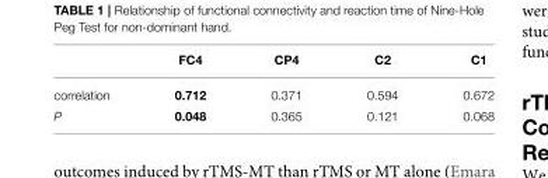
<table><thead><tr><td></td><td>FC4</td><td>CP4</td><td>C2</td><td>C1</td></tr></thead><tbody><tr><td>correlation</td><td>0.712</td><td>0.371</td><td>0.594</td><td>0.672</td></tr><tr><td>P</td><td>0.048</td><td>0.365</td><td>0.121</td><td>0.068</td></tr></tbody></table>